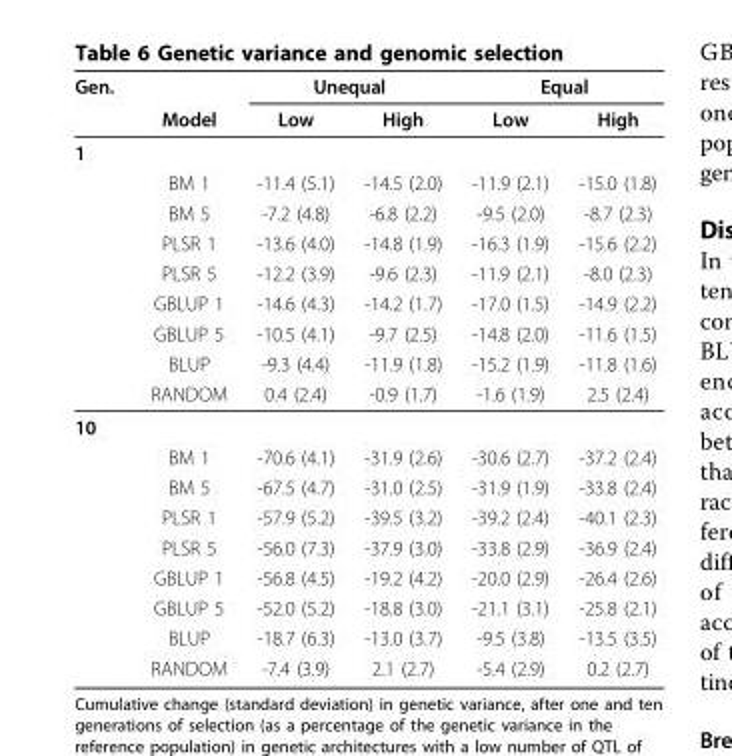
<table><thead><tr><td rowspan="2">Gen.</td><td rowspan="2">Model</td><td colspan="2">Unequal</td><td colspan="2">Equal</td></tr><tr><td>Low</td><td>High</td><td>Low</td><td>High</td></tr></thead><tbody><tr><td colspan="6">1</td></tr><tr><td></td><td>BM 1</td><td>-11.4 (5.1)</td><td>-14.5 (2.0)</td><td>-11.9 (2.1)</td><td>-15.0 (1.8)</td></tr><tr><td></td><td>BM 5</td><td>-7.2 (4.8)</td><td>-6.8 (2.2)</td><td>-9.5 (2.0)</td><td>-8.7 (2.3)</td></tr><tr><td></td><td>PLSR 1</td><td>-13.6 (4.0)</td><td>-14.8 (1.9)</td><td>-16.3 (1.9)</td><td>-15.6 (2.2)</td></tr><tr><td></td><td>PLSR 5</td><td>-12.2 (3.9)</td><td>-9.6 (2.3)</td><td>-11.9 (2.1)</td><td>-8.0 (2.3)</td></tr><tr><td></td><td>GBLUP 1</td><td>-14.6 (4.3)</td><td>-14.2 (1.7)</td><td>-17.0 (1.5)</td><td>-14.9 (2.2)</td></tr><tr><td></td><td>GBLUP 5</td><td>-10.5 (4.1)</td><td>-9.7 (2.5)</td><td>-14.8 (2.0)</td><td>-11.6 (1.5)</td></tr><tr><td></td><td>BLUP</td><td>-9.3 (4.4)</td><td>-11.9 (1.8)</td><td>-15.2 (1.9)</td><td>-11.8 (1.6)</td></tr><tr><td></td><td>RANDOM</td><td>0.4 (2.4)</td><td>-0.9 (1.7)</td><td>-1.6 (1.9)</td><td>2.5 (2.4)</td></tr><tr><td colspan="6">10</td></tr><tr><td></td><td>BM 1</td><td>-70.6 (4.1)</td><td>-31.9 (2.6)</td><td>-30.6 (2.7)</td><td>-37.2 (2.4)</td></tr><tr><td></td><td>BM 5</td><td>-67.5 (4.7)</td><td>-31.0 (2.5)</td><td>-31.9 (1.9)</td><td>-33.8 (2.4)</td></tr><tr><td></td><td>PLSR 1</td><td>-57.9 (5.2)</td><td>-39.5 (3.2)</td><td>-39.2 (2.4)</td><td>-40.1 (2.3)</td></tr><tr><td></td><td>PLSR 5</td><td>-56.0 (7.3)</td><td>-37.9 (3.0)</td><td>-33.8 (2.9)</td><td>-36.9 (2.4)</td></tr><tr><td></td><td>GBLUP 1</td><td>-56.8 (4.5)</td><td>-19.2 (4.2)</td><td>-20.0 (2.9)</td><td>-26.4 (2.6)</td></tr><tr><td></td><td>GBLUP 5</td><td>-52.0 (5.2)</td><td>-18.8 (3.0)</td><td>-21.1 (3.1)</td><td>-25.8 (2.1)</td></tr><tr><td></td><td>BLUP</td><td>-18.7 (6.3)</td><td>-13.0 (3.7)</td><td>-9.5 (3.8)</td><td>-13.5 (3.5)</td></tr><tr><td></td><td>RANDOM</td><td>-7.4 (3.9)</td><td>2.1 (2.7)</td><td>-5.4 (2.9)</td><td>0.2 (2.7)</td></tr></tbody></table>